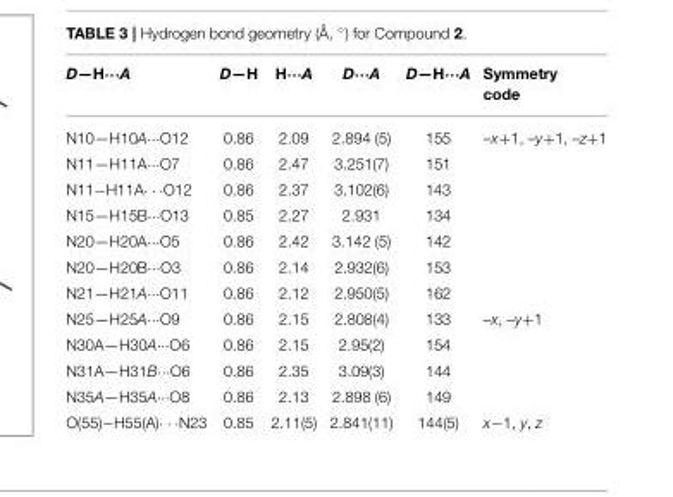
<table><thead><tr><td>D—H···A</td><td>D—H</td><td>H···A</td><td>D···A</td><td>D—H···A</td><td>Symmetry code</td></tr></thead><tbody><tr><td>N10—H10A···O12</td><td>0.86</td><td>2.09</td><td>2.894 (5)</td><td>155</td><td>–x+1, –y+1, –z+1</td></tr><tr><td>N11—H11A···O7</td><td>0.86</td><td>2.47</td><td>3.251(7)</td><td>151</td><td></td></tr><tr><td>N11−H11A· · ·O12</td><td>0.86</td><td>2.37</td><td>3.102(6)</td><td>143</td><td></td></tr><tr><td>N15—H15B···O13</td><td>0.85</td><td>2.27</td><td>2.931</td><td>134</td><td></td></tr><tr><td>N20—H20A···O5</td><td>0.86</td><td>2.42</td><td>3.142 (5)</td><td>142</td><td></td></tr><tr><td>N20—H20B···O3</td><td>0.86</td><td>2.14</td><td>2.932(6)</td><td>153</td><td></td></tr><tr><td>N21—H21A···O11</td><td>0.86</td><td>2.12</td><td>2.950(5)</td><td>162</td><td></td></tr><tr><td>N25—H25A···O9</td><td>0.86</td><td>2.15</td><td>2.808(4)</td><td>133</td><td>–x, –y+1</td></tr><tr><td>N30A—H30A···O6</td><td>0.86</td><td>2.15</td><td>2.95(2)</td><td>154</td><td></td></tr><tr><td>N31A—H31B···O6</td><td>0.86</td><td>2.35</td><td>3.09(3)</td><td>144</td><td></td></tr><tr><td>N35A—H35A···O8</td><td>0.86</td><td>2.13</td><td>2.898 (6)</td><td>149</td><td></td></tr><tr><td>O(55)−H55(A)· · ·N23</td><td>0.85</td><td>2.11(5)</td><td>2.841(11)</td><td>144(5)</td><td>x−1, y, z</td></tr></tbody></table>